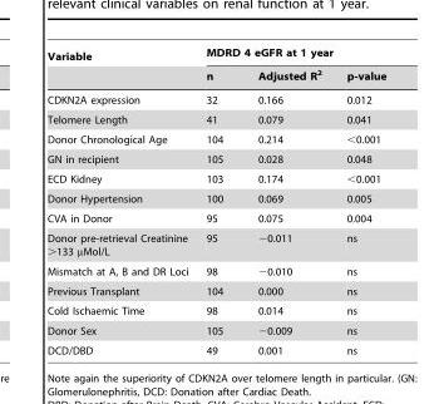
<table><thead><tr><td rowspan="2">Variable</td><td colspan="3">MDRD 4 eGFR at 1 year</td></tr><tr><td>n</td><td>Adjusted R<sup>2</sup></td><td>p-value</td></tr></thead><tbody><tr><td>CDKN2A expression</td><td>32</td><td>0.166</td><td>0.012</td></tr><tr><td>Telomere Length</td><td>41</td><td>0.079</td><td>0.041</td></tr><tr><td>Donor Chronological Age</td><td>104</td><td>0.214</td><td>&lt;0.001</td></tr><tr><td>GN in recipient</td><td>105</td><td>0.028</td><td>0.048</td></tr><tr><td>ECD Kidney</td><td>103</td><td>0.174</td><td>&lt;0.001</td></tr><tr><td>Donor Hypertension</td><td>100</td><td>0.069</td><td>0.005</td></tr><tr><td>CVA in Donor</td><td>95</td><td>0.075</td><td>0.004</td></tr><tr><td>Donor pre-retrieval Creatinine &gt;133 µMol/L</td><td>95</td><td>−0.011</td><td>ns</td></tr><tr><td>Mismatch at A, B and DR Loci</td><td>98</td><td>−0.010</td><td>ns</td></tr><tr><td>Previous Transplant</td><td>104</td><td>0.000</td><td>ns</td></tr><tr><td>Cold Ischaemic Time</td><td>98</td><td>0.014</td><td>ns</td></tr><tr><td>Donor Sex</td><td>105</td><td>−0.009</td><td>ns</td></tr><tr><td>DCD/DBD</td><td>49</td><td>0.001</td><td>ns</td></tr></tbody></table>